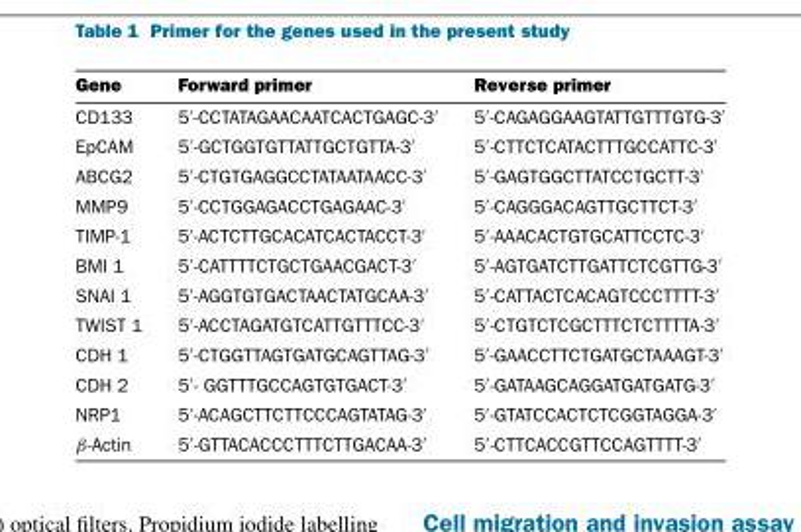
<table><thead><tr><td>Gene</td><td>Forward primer</td><td>Reverse primer</td></tr></thead><tbody><tr><td>CD133</td><td>5′-CCTATAGAACAATCACTGAGC-3′</td><td>5′-CAGAGGAAGTATTGTTTGTG-3′</td></tr><tr><td>EpCAM</td><td>5′-GCTGGTGTTATTGCTGTTA-3′</td><td>5′-CTTCTCATACTTTGCCATTC-3′</td></tr><tr><td>ABCG2</td><td>5′-CTGTGAGGCCTATAATAACC-3′</td><td>5′-GAGTGGCTTATCCTGCTT-3′</td></tr><tr><td>MMP9</td><td>5′-CCTGGAGACCTGAGAAC-3′</td><td>5′-CAGGGACAGTTGCTTCT-3′</td></tr><tr><td>TIMP-1</td><td>5′-ACTCTTGCACATCACTACCT-3′</td><td>5′-AAACACTGTGCATTCCTC-3′</td></tr><tr><td>BMI 1</td><td>5′-CATTTTCTGCTGAACGACT-3′</td><td>5′-AGTGATCTTGATTCTCGTTG-3′</td></tr><tr><td>SNAI 1</td><td>5′-AGGTGTGACTAACTATGCAA-3′</td><td>5′-CATTACTCACAGTCCCTTTT-3′</td></tr><tr><td>TWIST 1</td><td>5′-ACCTAGATGTCATTGTTTCC-3′</td><td>5′-CTGTCTCGCTTTCTCTTTTA-3′</td></tr><tr><td>CDH 1</td><td>5′-CTGGTTAGTGATGCAGTTAG-3′</td><td>5′-GAACCTTCTGATGCTAAAGT-3′</td></tr><tr><td>CDH 2</td><td>5′- GGTTTGCCAGTGTGACT-3′</td><td>5′-GATAAGCAGGATGATGATG-3′</td></tr><tr><td>NRP1</td><td>5′-ACAGCTTCTTCCCAGTATAG-3′</td><td>5′-GTATCCACTCTCGGTAGGA-3′</td></tr><tr><td>β-Actin</td><td>5′-GTTACACCCTTTCTTGACAA-3′</td><td>5′-CTTCACCGTTCCAGTTTT-3′</td></tr></tbody></table>